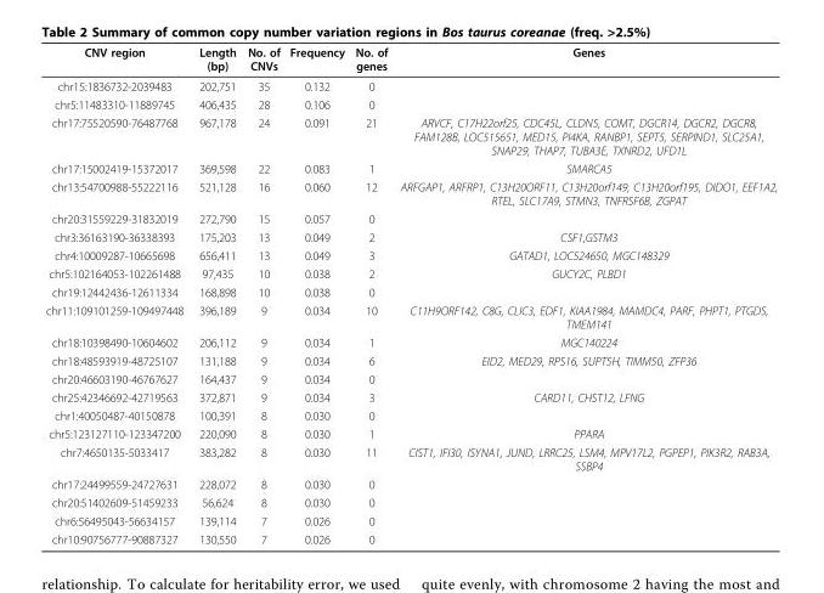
<table><thead><tr><td>CNV region</td><td>Length (bp)</td><td>No. of CNVs</td><td>Frequency</td><td>No. of genes</td><td>Genes</td></tr></thead><tbody><tr><td>chr15:1836732-2039483</td><td>202,751</td><td>35</td><td>0.132</td><td>0</td><td></td></tr><tr><td>chr5:11483310-11889745</td><td>406,435</td><td>28</td><td>0.106</td><td>0</td><td></td></tr><tr><td>chr17:75520590-76487768</td><td>967,178</td><td>24</td><td>0.091</td><td>21</td><td>ARVCF, C17H22orf25, CDC45L, CLDN5, COMT, DGCR14, DGCR2, DGCR8, FAM128B, LOC515651, MED15, PI4KA, RANBP1, SEPT5, SERPIND1, SLC25A1, SNAP29, THAP7, TUBA3E, TXNRD2, UFD1L</td></tr><tr><td>chr17:15002419-15372017</td><td>369,598</td><td>22</td><td>0.083</td><td>1</td><td>SMARCA5</td></tr><tr><td>chr13:54700988-55222116</td><td>521,128</td><td>16</td><td>0.060</td><td>12</td><td>ARFGAP1, ARFRP1, C13H20ORF11, C13H20orf149, C13H20orf195, DIDO1, EEF1A2, RTEL, SLC17A9, STMN3, TNFRSF6B, ZGPAT</td></tr><tr><td>chr20:31559229-31832019</td><td>272,790</td><td>15</td><td>0.057</td><td>0</td><td></td></tr><tr><td>chr3:36163190-36338393</td><td>175,203</td><td>13</td><td>0.049</td><td>2</td><td>CSF1,GSTM3</td></tr><tr><td>chr4:10009287-10665698</td><td>656,411</td><td>13</td><td>0.049</td><td>3</td><td>GATAD1, LOC524650, MGC148329</td></tr><tr><td>chr5:102164053-102261488</td><td>97,435</td><td>10</td><td>0.038</td><td>2</td><td>GUCY2C, PLBD1</td></tr><tr><td>chr19:12442436-12611334</td><td>168,898</td><td>10</td><td>0.038</td><td>0</td><td></td></tr><tr><td>chr11:109101259-109497448</td><td>396,189</td><td>9</td><td>0.034</td><td>10</td><td>C11H9ORF142, C8G, CLIC3, EDF1, KIAA1984, MAMDC4, PARF, PHPT1, PTGDS, TMEM141</td></tr><tr><td>chr18:10398490-10604602</td><td>206,112</td><td>9</td><td>0.034</td><td>1</td><td>MGC140224</td></tr><tr><td>chr18:48593919-48725107</td><td>131,188</td><td>9</td><td>0.034</td><td>6</td><td>EID2, MED29, RPS16, SUPT5H, TIMM50, ZFP36</td></tr><tr><td>chr20:46603190-46767627</td><td>164,437</td><td>9</td><td>0.034</td><td>0</td><td></td></tr><tr><td>chr25:42346692-42719563</td><td>372,871</td><td>9</td><td>0.034</td><td>3</td><td>CARD11, CHST12, LFNG</td></tr><tr><td>chr1:40050487-40150878</td><td>100,391</td><td>8</td><td>0.030</td><td>0</td><td></td></tr><tr><td>chr5:123127110-123347200</td><td>220,090</td><td>8</td><td>0.030</td><td>1</td><td>PPARA</td></tr><tr><td>chr7:4650135-5033417</td><td>383,282</td><td>8</td><td>0.030</td><td>11</td><td>CIST1, IFI30, ISYNA1, JUND, LRRC25, LSM4, MPV17L2, PGPEP1, PIK3R2, RAB3A, SSBP4</td></tr><tr><td>chr17:24499559-24727631</td><td>228,072</td><td>8</td><td>0.030</td><td>0</td><td></td></tr><tr><td>chr20:51402609-51459233</td><td>56,624</td><td>8</td><td>0.030</td><td>0</td><td></td></tr><tr><td>chr6:56495043-56634157</td><td>139,114</td><td>7</td><td>0.026</td><td>0</td><td></td></tr><tr><td>chr10:90756777-90887327</td><td>130,550</td><td>7</td><td>0.026</td><td>0</td><td></td></tr></tbody></table>